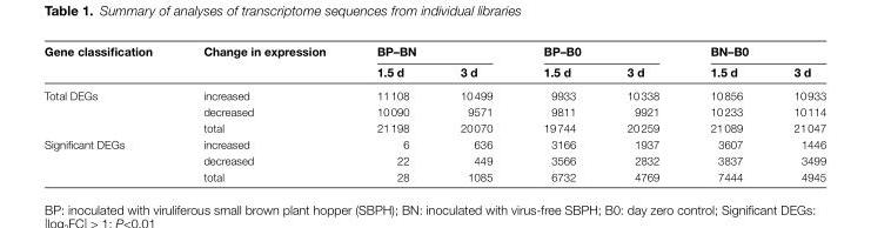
<table><thead><tr><td rowspan="2">Gene classification</td><td rowspan="2">Change in expression</td><td colspan="2">BP–BN</td><td colspan="2">BP–B0</td><td colspan="2">BN–B0</td></tr><tr><td>1.5 d</td><td>3 d</td><td>1.5 d</td><td>3 d</td><td>1.5 d</td><td>3 d</td></tr></thead><tbody><tr><td rowspan="3">Total DEGs</td><td>increased</td><td>11 108</td><td>10 499</td><td>9933</td><td>10 338</td><td>10 856</td><td>10 933</td></tr><tr><td>decreased</td><td>10 090</td><td>9571</td><td>9811</td><td>9921</td><td>10 233</td><td>10 114</td></tr><tr><td>total</td><td>21 198</td><td>20 070</td><td>19 744</td><td>20 259</td><td>21 089</td><td>21 047</td></tr><tr><td rowspan="3">Significant DEGs</td><td>increased</td><td>6</td><td>636</td><td>3166</td><td>1937</td><td>3607</td><td>1446</td></tr><tr><td>decreased</td><td>22</td><td>449</td><td>3566</td><td>2832</td><td>3837</td><td>3499</td></tr><tr><td>total</td><td>28</td><td>1085</td><td>6732</td><td>4769</td><td>7444</td><td>4945</td></tr></tbody></table>